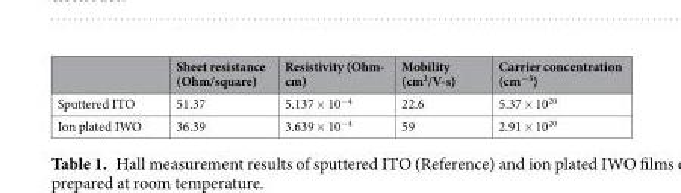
<table><thead><tr><td></td><td>Sheet resistance (Ohm/square)</td><td>Resistivity (Ohm- cm)</td><td>Mobility (cm<sup>2</sup>/V-s)</td><td>Carrier concentration (cm<sup>−3</sup>)</td></tr></thead><tbody><tr><td>Sputtered ITO</td><td>51.37</td><td>5.137 × 10<sup>−4</sup></td><td>22.6</td><td>5.37 × 10<sup>20</sup></td></tr><tr><td>Ion plated IWO</td><td>36.39</td><td>3.639 × 10<sup>−4</sup></td><td>59</td><td>2.91 × 10<sup>20</sup></td></tr></tbody></table>